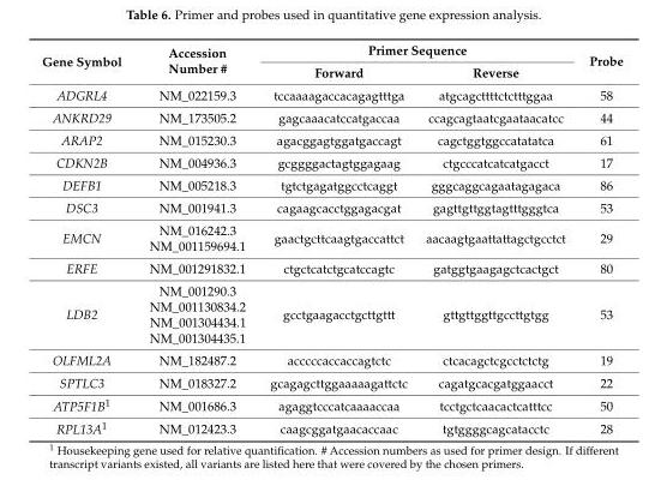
<table><thead><tr><td rowspan="2">Gene Symbol</td><td rowspan="2">Accession Number #</td><td colspan="2">Primer Sequence</td><td rowspan="2">Probe</td></tr><tr><td>Forward</td><td>Reverse</td></tr></thead><tbody><tr><td>ADGRL4</td><td>NM_022159.3</td><td>tccaaaagaccacagagtttga</td><td>atgcagcttttctctttggaa</td><td>58</td></tr><tr><td>ANKRD29</td><td>NM_173505.2</td><td>gagcaaacatccatgaccaa</td><td>ccagcagtaatcgaataacatcc</td><td>44</td></tr><tr><td>ARAP2</td><td>NM_015230.3</td><td>agacggagtggatgaccagt</td><td>cagctggtggccatatatca</td><td>61</td></tr><tr><td>CDKN2B</td><td>NM_004936.3</td><td>gcggggactagtggagaag</td><td>ctgcccatcatcatgacct</td><td>17</td></tr><tr><td>DEFB1</td><td>NM_005218.3</td><td>tgtctgagatggcctcaggt</td><td>gggcaggcagaatagagaca</td><td>86</td></tr><tr><td>DSC3</td><td>NM_001941.3</td><td>cagaagcacctggagacgat</td><td>gagttgttggtagtttgggtca</td><td>53</td></tr><tr><td>EMCN</td><td>NM_016242.3 NM_001159694.1</td><td>gaactgcttcaagtgaccattct</td><td>aacaagtgaattattagctgcctct</td><td>29</td></tr><tr><td>ERFE</td><td>NM_001291832.1</td><td>ctgctcatctgcatccagtc</td><td>gatggtgaagagctcactgct</td><td>80</td></tr><tr><td>LDB2</td><td>NM_001290.3 NM_001130834.2 NM_001304434.1 NM_001304435.1</td><td>gcctgaagacctgcttgttt</td><td>gttgttggttgccttgtgg</td><td>53</td></tr><tr><td>OLFML2A</td><td>NM_182487.2</td><td>acccccaccaccagtctc</td><td>ctcacagctcgcctctctg</td><td>19</td></tr><tr><td>SPTLC3</td><td>NM_018327.2</td><td>gcagagcttggaaaaagattctc</td><td>cagatgcacgatggaacct</td><td>22</td></tr><tr><td>ATP5F1B<sup>1</sup></td><td>NM_001686.3</td><td>agaggtcccatcaaaaccaa</td><td>tcctgctcaacactcatttcc</td><td>50</td></tr><tr><td>RPL13A<sup>1</sup></td><td>NM_012423.3</td><td>caagcggatgaacaccaac</td><td>tgtggggcagcatacctc</td><td>28</td></tr></tbody></table>